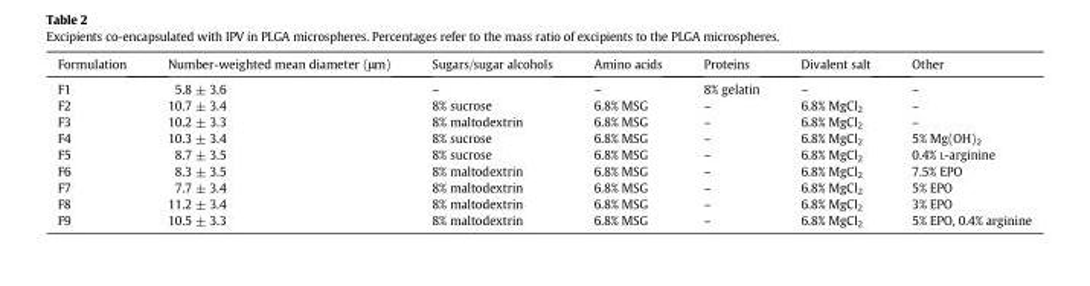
<table><thead><tr><td>Formulation</td><td>Number-weighted mean diameter (μm)</td><td>Sugars/sugar alcohols</td><td>Amino acids</td><td>Proteins</td><td>Divalent salt</td><td>Other</td></tr></thead><tbody><tr><td>F1</td><td>5.8 ± 3.6</td><td>–</td><td>–</td><td>8% gelatin</td><td>–</td><td>–</td></tr><tr><td>F2</td><td>10.7 ± 3.4</td><td>8% sucrose</td><td>6.8% MSG</td><td>–</td><td>6.8% MgCl<sub>2</sub></td><td>–</td></tr><tr><td>F3</td><td>10.2 ± 3.3</td><td>8% maltodextrin</td><td>6.8% MSG</td><td>–</td><td>6.8% MgCl<sub>2</sub></td><td>–</td></tr><tr><td>F4</td><td>10.3 ± 3.4</td><td>8% sucrose</td><td>6.8% MSG</td><td>–</td><td>6.8% MgCl<sub>2</sub></td><td>5% Mg(OH)<sub>2</sub></td></tr><tr><td>F5</td><td>8.7 ± 3.5</td><td>8% sucrose</td><td>6.8% MSG</td><td>–</td><td>6.8% MgCl<sub>2</sub></td><td>0.4% L-arginine</td></tr><tr><td>F6</td><td>8.3 ± 3.5</td><td>8% maltodextrin</td><td>6.8% MSG</td><td>–</td><td>6.8% MgCl<sub>2</sub></td><td>7.5% EPO</td></tr><tr><td>F7</td><td>7.7 ± 3.4</td><td>8% maltodextrin</td><td>6.8% MSG</td><td>–</td><td>6.8% MgCl<sub>2</sub></td><td>5% EPO</td></tr><tr><td>F8</td><td>11.2 ± 3.4</td><td>8% maltodextrin</td><td>6.8% MSG</td><td>–</td><td>6.8% MgCl<sub>2</sub></td><td>3% EPO</td></tr><tr><td>F9</td><td>10.5 ± 3.3</td><td>8% maltodextrin</td><td>6.8% MSG</td><td>–</td><td>6.8% MgCl<sub>2</sub></td><td>5% EPO, 0.4% arginine</td></tr></tbody></table>